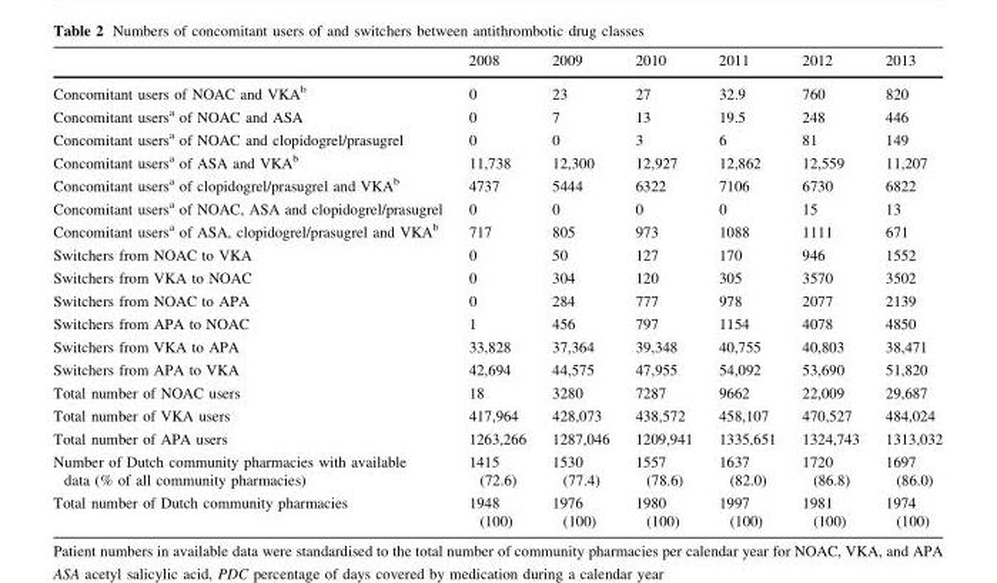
<table><thead><tr><td></td><td>2008</td><td>2009</td><td>2010</td><td>2011</td><td>2012</td><td>2013</td></tr></thead><tbody><tr><td>Concomitant users of NOAC and VKA<sup>b</sup></td><td>0</td><td>23</td><td>27</td><td>32.9</td><td>760</td><td>820</td></tr><tr><td>Concomitant users<sup>a</sup> of NOAC and ASA</td><td>0</td><td>7</td><td>13</td><td>19.5</td><td>248</td><td>446</td></tr><tr><td>Concomitant users<sup>a</sup> of NOAC and clopidogrel/prasugrel</td><td>0</td><td>0</td><td>3</td><td>6</td><td>81</td><td>149</td></tr><tr><td>Concomitant users<sup>a</sup> of ASA and VKA<sup>b</sup></td><td>11,738</td><td>12,300</td><td>12,927</td><td>12,862</td><td>12,559</td><td>11,207</td></tr><tr><td>Concomitant users<sup>a</sup> of clopidogrel/prasugrel and VKA<sup>b</sup></td><td>4737</td><td>5444</td><td>6322</td><td>7106</td><td>6730</td><td>6822</td></tr><tr><td>Concomitant users<sup>a</sup> of NOAC, ASA and clopidogrel/prasugrel</td><td>0</td><td>0</td><td>0</td><td>0</td><td>15</td><td>13</td></tr><tr><td>Concomitant users<sup>a</sup> of ASA, clopidogrel/prasugrel and VKA<sup>b</sup></td><td>717</td><td>805</td><td>973</td><td>1088</td><td>1111</td><td>671</td></tr><tr><td>Switchers from NOAC to VKA</td><td>0</td><td>50</td><td>127</td><td>170</td><td>946</td><td>1552</td></tr><tr><td>Switchers from VKA to NOAC</td><td>0</td><td>304</td><td>120</td><td>305</td><td>3570</td><td>3502</td></tr><tr><td>Switchers from NOAC to APA</td><td>0</td><td>284</td><td>777</td><td>978</td><td>2077</td><td>2139</td></tr><tr><td>Switchers from APA to NOAC</td><td>1</td><td>456</td><td>797</td><td>1154</td><td>4078</td><td>4850</td></tr><tr><td>Switchers from VKA to APA</td><td>33,828</td><td>37,364</td><td>39,348</td><td>40,755</td><td>40,803</td><td>38,471</td></tr><tr><td>Switchers from APA to VKA</td><td>42,694</td><td>44,575</td><td>47,955</td><td>54,092</td><td>53,690</td><td>51,820</td></tr><tr><td>Total number of NOAC users</td><td>18</td><td>3280</td><td>7287</td><td>9662</td><td>22,009</td><td>29,687</td></tr><tr><td>Total number of VKA users</td><td>417,964</td><td>428,073</td><td>438,572</td><td>458,107</td><td>470,527</td><td>484,024</td></tr><tr><td>Total number of APA users</td><td>1263,266</td><td>1287,046</td><td>1209,941</td><td>1335,651</td><td>1324,743</td><td>1313,032</td></tr><tr><td>Number of Dutch community pharmacies with available data (% of all community pharmacies)</td><td>1415 (72.6)</td><td>1530 (77.4)</td><td>1557 (78.6)</td><td>1637 (82.0)</td><td>1720 (86.8)</td><td>1697 (86.0)</td></tr><tr><td>Total number of Dutch community pharmacies</td><td>1948 (100)</td><td>1976 (100)</td><td>1980 (100)</td><td>1997 (100)</td><td>1981 (100)</td><td>1974 (100)</td></tr></tbody></table>